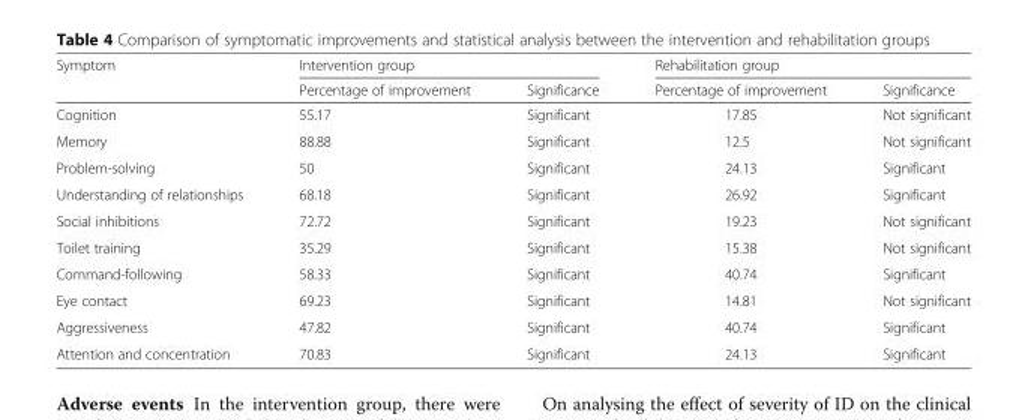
<table><thead><tr><td rowspan="2">Symptom</td><td colspan="2">Intervention group</td><td colspan="2">Rehabilitation group</td></tr><tr><td>Percentage of improvement</td><td>Significance</td><td>Percentage of improvement</td><td>Significance</td></tr></thead><tbody><tr><td>Cognition</td><td>55.17</td><td>Significant</td><td>17.85</td><td>Not significant</td></tr><tr><td>Memory</td><td>88.88</td><td>Significant</td><td>12.5</td><td>Not significant</td></tr><tr><td>Problem-solving</td><td>50</td><td>Significant</td><td>24.13</td><td>Significant</td></tr><tr><td>Understanding of relationships</td><td>68.18</td><td>Significant</td><td>26.92</td><td>Significant</td></tr><tr><td>Social inhibitions</td><td>72.72</td><td>Significant</td><td>19.23</td><td>Not significant</td></tr><tr><td>Toilet training</td><td>35.29</td><td>Significant</td><td>15.38</td><td>Not significant</td></tr><tr><td>Command-following</td><td>58.33</td><td>Significant</td><td>40.74</td><td>Significant</td></tr><tr><td>Eye contact</td><td>69.23</td><td>Significant</td><td>14.81</td><td>Not significant</td></tr><tr><td>Aggressiveness</td><td>47.82</td><td>Significant</td><td>40.74</td><td>Significant</td></tr><tr><td>Attention and concentration</td><td>70.83</td><td>Significant</td><td>24.13</td><td>Significant</td></tr></tbody></table>